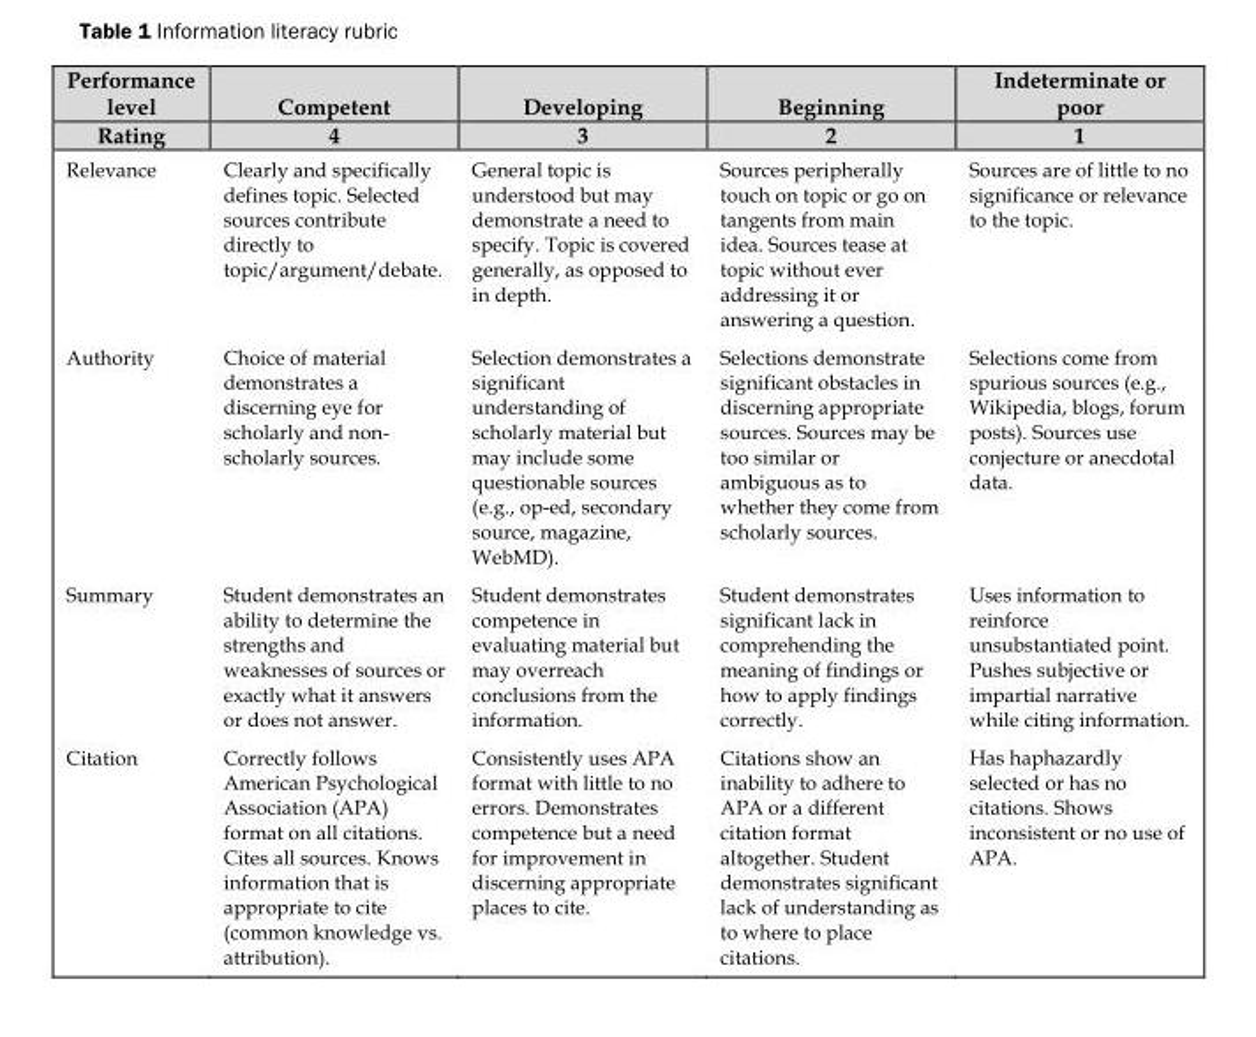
<table><thead><tr><td rowspan="2">Performance level Rating</td><td rowspan="2">Competent 4</td><td rowspan="2">Developing 3</td><td rowspan="2">Beginning 2</td><td rowspan="2">Indeterminate or poor 1</td></tr><tr></tr></thead><tbody><tr><td>Relevance</td><td>Clearly and specifically defines topic. Selected sources contribute directly to topic/argument/debate.</td><td>General topic is understood but may demonstrate a need to specify. Topic is covered generally, as opposed to in depth.</td><td>Sources peripherally touch on topic or go on tangents from main idea. Sources tease at topic without ever addressing it or answering a question.</td><td>Sources are of little to no significance or relevance to the topic.</td></tr><tr><td>Authority</td><td>Choice of material demonstrates a discerning eye for scholarly and non- scholarly sources.</td><td>Selection demonstrates a significant understanding of scholarly material but may include some questionable sources (e.g., op-ed, secondary source, magazine, WebMD).</td><td>Selections demonstrate significant obstacles in discerning appropriate sources. Sources may be too similar or ambiguous as to whether they come from scholarly sources.</td><td>Selections come from spurious sources (e.g., Wikipedia, blogs, forum posts). Sources use conjecture or anecdotal data.</td></tr><tr><td>Summary</td><td>Student demonstrates an ability to determine the strengths and weaknesses of sources or exactly what it answers or does not answer.</td><td>Student demonstrates competence in evaluating material but may overreach conclusions from the information.</td><td>Student demonstrates significant lack in comprehending the meaning of findings or how to apply findings correctly.</td><td>Uses information to reinforce unsubstantiated point. Pushes subjective or impartial narrative while citing information.</td></tr><tr><td>Citation</td><td>Correctly follows American Psychological Association (APA) format on all citations. Cites all sources. Knows information that is appropriate to cite (common knowledge vs. attribution).</td><td>Consistently uses APA format with little to no errors. Demonstrates competence but a need for improvement in discerning appropriate places to cite.</td><td>Citations show an inability to adhere to APA or a different citation format altogether. Student demonstrates significant lack of understanding as to where to place citations.</td><td>Has haphazardly selected or has no citations. Shows inconsistent or no use of APA.</td></tr></tbody></table>